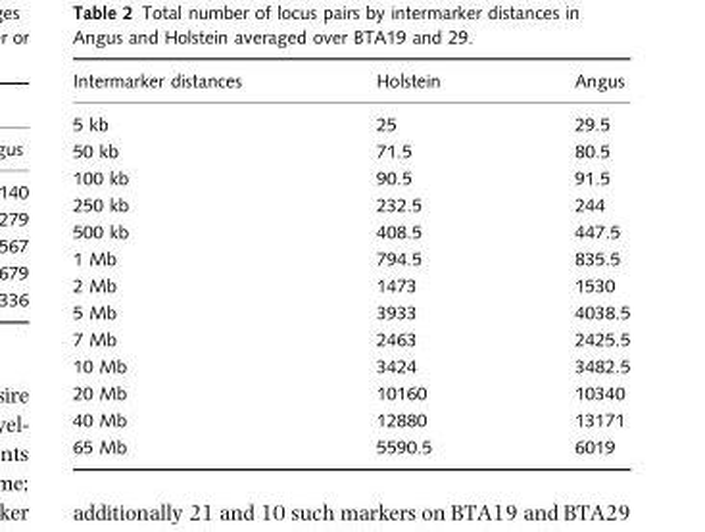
<table><thead><tr><td>Intermarker distances</td><td>Holstein</td><td>Angus</td></tr></thead><tbody><tr><td>5 kb</td><td>25</td><td>29.5</td></tr><tr><td>50 kb</td><td>71.5</td><td>80.5</td></tr><tr><td>100 kb</td><td>90.5</td><td>91.5</td></tr><tr><td>250 kb</td><td>232.5</td><td>244</td></tr><tr><td>500 kb</td><td>408.5</td><td>447.5</td></tr><tr><td>1 Mb</td><td>794.5</td><td>835.5</td></tr><tr><td>2 Mb</td><td>1473</td><td>1530</td></tr><tr><td>5 Mb</td><td>3933</td><td>4038.5</td></tr><tr><td>7 Mb</td><td>2463</td><td>2425.5</td></tr><tr><td>10 Mb</td><td>3424</td><td>3482.5</td></tr><tr><td>20 Mb</td><td>10160</td><td>10340</td></tr><tr><td>40 Mb</td><td>12880</td><td>13171</td></tr><tr><td>65 Mb</td><td>5590.5</td><td>6019</td></tr></tbody></table>